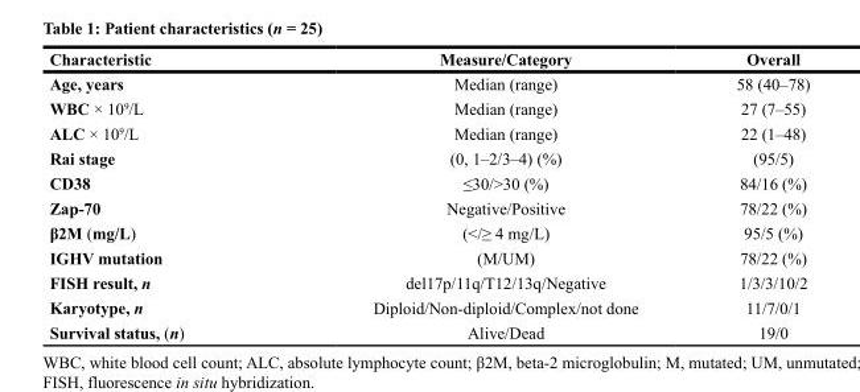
<table><thead><tr><td>Characteristic</td><td>Measure/Category</td><td>Overall</td></tr></thead><tbody><tr><td>Age, years</td><td>Median (range)</td><td>58 (40–78)</td></tr><tr><td>WBC × 10<sup>9</sup>/L</td><td>Median (range)</td><td>27 (7–55)</td></tr><tr><td>ALC × 10<sup>9</sup>/L</td><td>Median (range)</td><td>22 (1–48)</td></tr><tr><td>Rai stage</td><td>(0, 1–2/3–4) (%)</td><td>(95/5)</td></tr><tr><td>CD38</td><td>≤30/&gt;30 (%)</td><td>84/16 (%)</td></tr><tr><td>Zap-70</td><td>Negative/Positive</td><td>78/22 (%)</td></tr><tr><td>β2M (mg/L)</td><td>(&lt;/≥ 4 mg/L)</td><td>95/5 (%)</td></tr><tr><td>IGHV mutation</td><td>(M/UM)</td><td>78/22 (%)</td></tr><tr><td>FISH result, n</td><td>del17p/11q/T12/13q/Negative</td><td>1/3/3/10/2</td></tr><tr><td>Karyotype, n</td><td>Diploid/Non-diploid/Complex/not done</td><td>11/7/0/1</td></tr><tr><td>Survival status, (n)</td><td>Alive/Dead</td><td>19/0</td></tr></tbody></table>